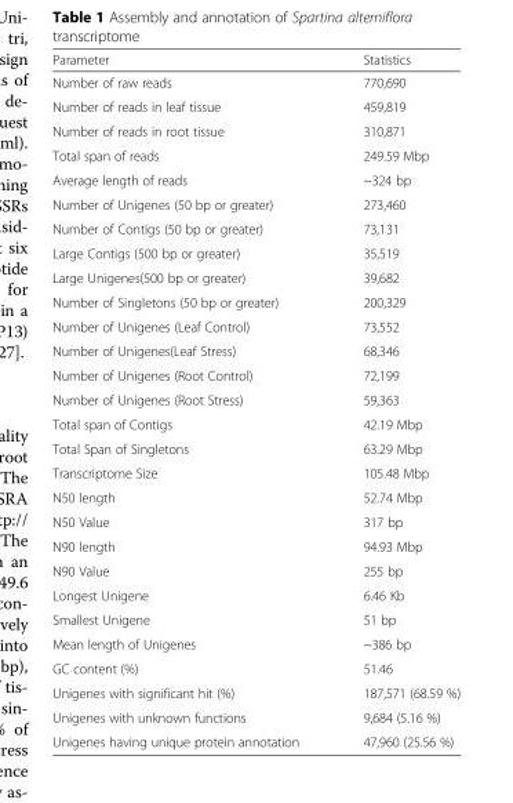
<table><thead><tr><td>Parameter</td><td>Statistics</td></tr></thead><tbody><tr><td>Number of raw reads</td><td>770,690</td></tr><tr><td>Number of reads in leaf tissue</td><td>459,819</td></tr><tr><td>Number of reads in root tissue</td><td>310,871</td></tr><tr><td>Total span of reads</td><td>249.59 Mbp</td></tr><tr><td>Average length of reads</td><td>~324 bp</td></tr><tr><td>Number of Unigenes (50 bp or greater)</td><td>273,460</td></tr><tr><td>Number of Contigs (50 bp or greater)</td><td>73,131</td></tr><tr><td>Large Contigs (500 bp or greater)</td><td>35,519</td></tr><tr><td>Large Unigenes(500 bp or greater)</td><td>39,682</td></tr><tr><td>Number of Singletons (50 bp or greater)</td><td>200,329</td></tr><tr><td>Number of Unigenes (Leaf Control)</td><td>73,552</td></tr><tr><td>Number of Unigenes(Leaf Stress)</td><td>68,346</td></tr><tr><td>Number of Unigenes (Root Control)</td><td>72,199</td></tr><tr><td>Number of Unigenes (Root Stress)</td><td>59,363</td></tr><tr><td>Total span of Contigs</td><td>42.19 Mbp</td></tr><tr><td>Total Span of Singletons</td><td>63.29 Mbp</td></tr><tr><td>Transcriptome Size</td><td>105.48 Mbp</td></tr><tr><td>N50 length</td><td>52.74 Mbp</td></tr><tr><td>N50 Value</td><td>317 bp</td></tr><tr><td>N90 length</td><td>94.93 Mbp</td></tr><tr><td>N90 Value</td><td>255 bp</td></tr><tr><td>Longest Unigene</td><td>6.46 Kb</td></tr><tr><td>Smallest Unigene</td><td>51 bp</td></tr><tr><td>Mean length of Unigenes</td><td>~386 bp</td></tr><tr><td>GC content (%)</td><td>51.46</td></tr><tr><td>Unigenes with significant hit (%)</td><td>187,571 (68.59 %)</td></tr><tr><td>Unigenes with unknown functions</td><td>9,684 (5.16 %)</td></tr><tr><td>Unigenes having unique protein annotation</td><td>47,960 (25.56 %)</td></tr></tbody></table>